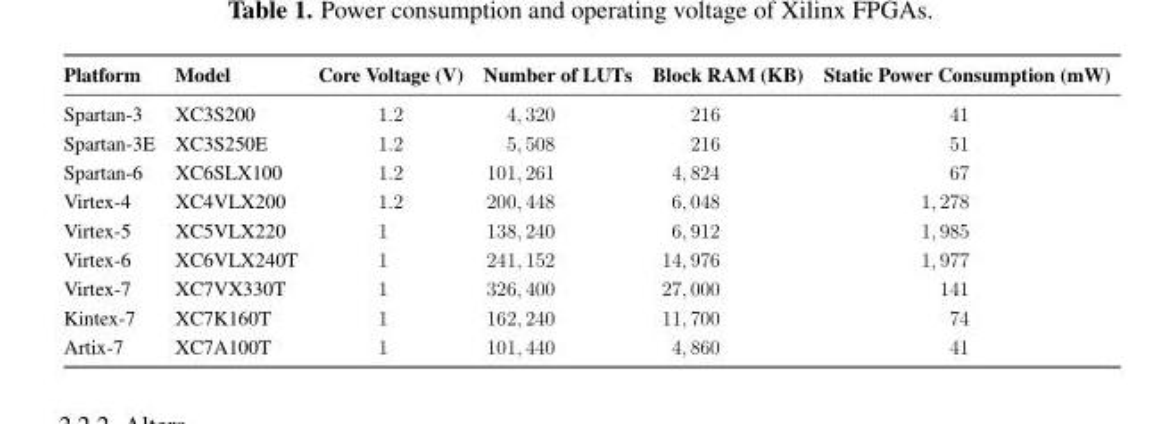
<table><thead><tr><td>Platform</td><td>Model</td><td>Core Voltage (V)</td><td>Number of LUTs</td><td>Block RAM (KB)</td><td>Static Power Consumption (mW)</td></tr></thead><tbody><tr><td>Spartan-3</td><td>XC3S200</td><td>1.2</td><td>4, 320</td><td>216</td><td>41</td></tr><tr><td>Spartan-3E</td><td>XC3S250E</td><td>1.2</td><td>5, 508</td><td>216</td><td>51</td></tr><tr><td>Spartan-6</td><td>XC6SLX100</td><td>1.2</td><td>101, 261</td><td>4, 824</td><td>67</td></tr><tr><td>Virtex-4</td><td>XC4VLX200</td><td>1.2</td><td>200, 448</td><td>6, 048</td><td>1, 278</td></tr><tr><td>Virtex-5</td><td>XC5VLX220</td><td>1</td><td>138, 240</td><td>6, 912</td><td>1, 985</td></tr><tr><td>Virtex-6</td><td>XC6VLX240T</td><td>1</td><td>241, 152</td><td>14, 976</td><td>1, 977</td></tr><tr><td>Virtex-7</td><td>XC7VX330T</td><td>1</td><td>326, 400</td><td>27, 000</td><td>141</td></tr><tr><td>Kintex-7</td><td>XC7K160T</td><td>1</td><td>162, 240</td><td>11, 700</td><td>74</td></tr><tr><td>Artix-7</td><td>XC7A100T</td><td>1</td><td>101, 440</td><td>4, 860</td><td>41</td></tr></tbody></table>